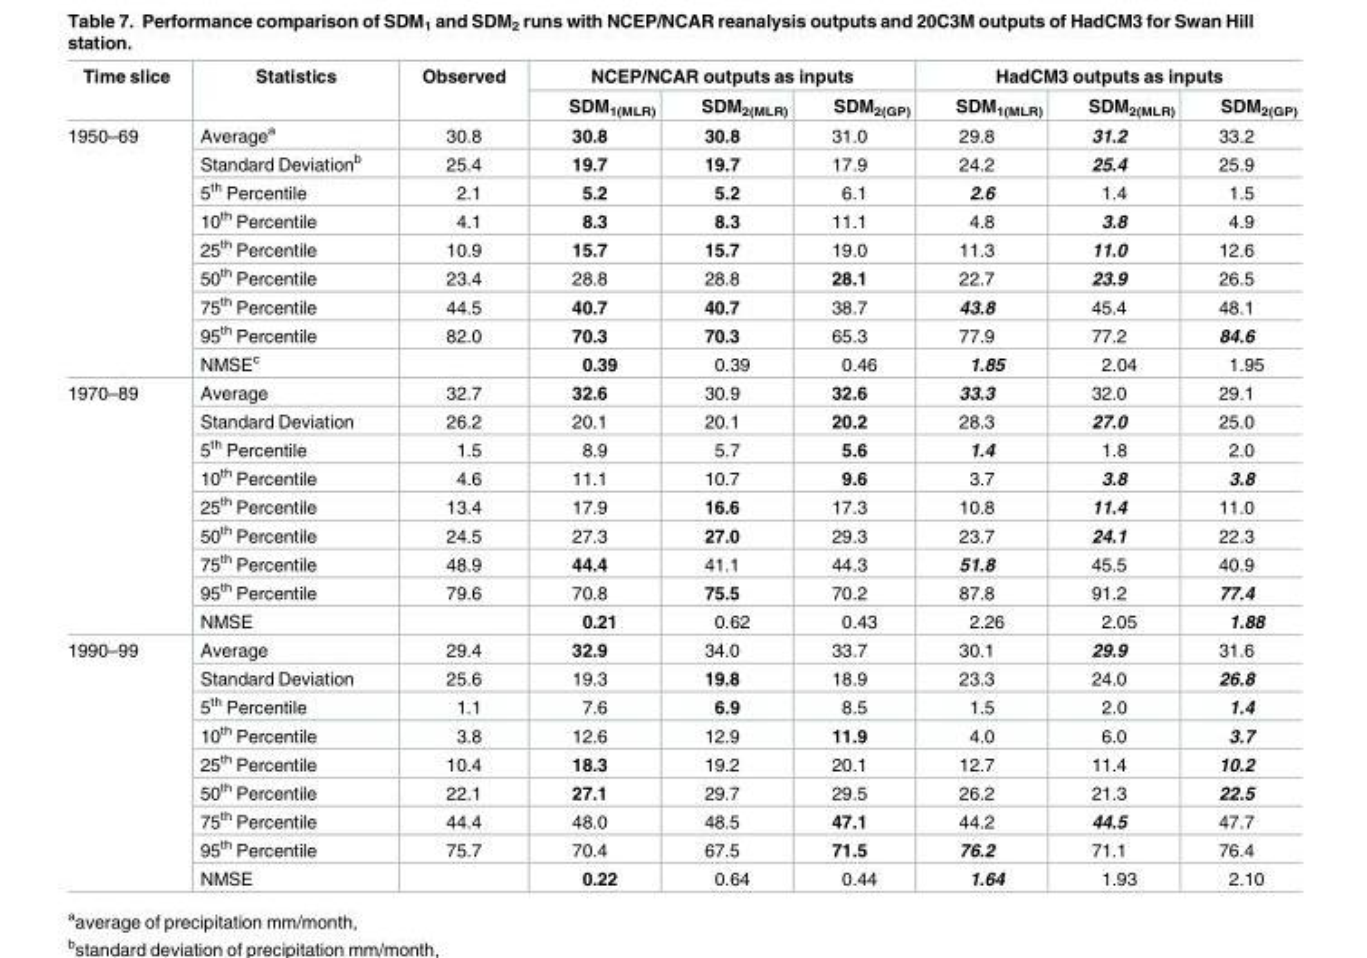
<table><thead><tr><td rowspan="2">Time slice</td><td rowspan="2">Statistics</td><td rowspan="2">Observed</td><td colspan="3">NCEP/NCAR outputs as inputs</td><td colspan="3">HadCM3 outputs as inputs</td></tr><tr><td>SDM<sub>1(MLR)</sub></td><td>SDM<sub>2(MLR)</sub></td><td>SDM<sub>2(GP)</sub></td><td>SDM<sub>1(MLR)</sub></td><td>SDM<sub>2(MLR)</sub></td><td>SDM<sub>2(GP)</sub></td></tr></thead><tbody><tr><td rowspan="9">1950–69</td><td>Average<sup>a</sup></td><td>30.8</td><td>30.8</td><td>30.8</td><td>31.0</td><td>29.8</td><td>31.2</td><td>33.2</td></tr><tr><td>Standard Deviation<sup>b</sup></td><td>25.4</td><td>19.7</td><td>19.7</td><td>17.9</td><td>24.2</td><td>25.4</td><td>25.9</td></tr><tr><td>5<sup>th</sup> Percentile</td><td>2.1</td><td>5.2</td><td>5.2</td><td>6.1</td><td>2.6</td><td>1.4</td><td>1.5</td></tr><tr><td>10<sup>th</sup> Percentile</td><td>4.1</td><td>8.3</td><td>8.3</td><td>11.1</td><td>4.8</td><td>3.8</td><td>4.9</td></tr><tr><td>25<sup>th</sup> Percentile</td><td>10.9</td><td>15.7</td><td>15.7</td><td>19.0</td><td>11.3</td><td>11.0</td><td>12.6</td></tr><tr><td>50<sup>th</sup> Percentile</td><td>23.4</td><td>28.8</td><td>28.8</td><td>28.1</td><td>22.7</td><td>23.9</td><td>26.5</td></tr><tr><td>75<sup>th</sup> Percentile</td><td>44.5</td><td>40.7</td><td>40.7</td><td>38.7</td><td>43.8</td><td>45.4</td><td>48.1</td></tr><tr><td>95<sup>th</sup> Percentile</td><td>82.0</td><td>70.3</td><td>70.3</td><td>65.3</td><td>77.9</td><td>77.2</td><td>84.6</td></tr><tr><td>NMSE<sup>c</sup></td><td></td><td>0.39</td><td>0.39</td><td>0.46</td><td>1.85</td><td>2.04</td><td>1.95</td></tr><tr><td rowspan="9">1970–89</td><td>Average</td><td>32.7</td><td>32.6</td><td>30.9</td><td>32.6</td><td>33.3</td><td>32.0</td><td>29.1</td></tr><tr><td>Standard Deviation</td><td>26.2</td><td>20.1</td><td>20.1</td><td>20.2</td><td>28.3</td><td>27.0</td><td>25.0</td></tr><tr><td>5<sup>th</sup> Percentile</td><td>1.5</td><td>8.9</td><td>5.7</td><td>5.6</td><td>1.4</td><td>1.8</td><td>2.0</td></tr><tr><td>10<sup>th</sup> Percentile</td><td>4.6</td><td>11.1</td><td>10.7</td><td>9.6</td><td>3.7</td><td>3.8</td><td>3.8</td></tr><tr><td>25<sup>th</sup> Percentile</td><td>13.4</td><td>17.9</td><td>16.6</td><td>17.3</td><td>10.8</td><td>11.4</td><td>11.0</td></tr><tr><td>50<sup>th</sup> Percentile</td><td>24.5</td><td>27.3</td><td>27.0</td><td>29.3</td><td>23.7</td><td>24.1</td><td>22.3</td></tr><tr><td>75<sup>th</sup> Percentile</td><td>48.9</td><td>44.4</td><td>41.1</td><td>44.3</td><td>51.8</td><td>45.5</td><td>40.9</td></tr><tr><td>95<sup>th</sup> Percentile</td><td>79.6</td><td>70.8</td><td>75.5</td><td>70.2</td><td>87.8</td><td>91.2</td><td>77.4</td></tr><tr><td>NMSE</td><td></td><td>0.21</td><td>0.62</td><td>0.43</td><td>2.26</td><td>2.05</td><td>1.88</td></tr><tr><td rowspan="9">1990–99</td><td>Average</td><td>29.4</td><td>32.9</td><td>34.0</td><td>33.7</td><td>30.1</td><td>29.9</td><td>31.6</td></tr><tr><td>Standard Deviation</td><td>25.6</td><td>19.3</td><td>19.8</td><td>18.9</td><td>23.3</td><td>24.0</td><td>26.8</td></tr><tr><td>5<sup>th</sup> Percentile</td><td>1.1</td><td>7.6</td><td>6.9</td><td>8.5</td><td>1.5</td><td>2.0</td><td>1.4</td></tr><tr><td>10<sup>th</sup> Percentile</td><td>3.8</td><td>12.6</td><td>12.9</td><td>11.9</td><td>4.0</td><td>6.0</td><td>3.7</td></tr><tr><td>25<sup>th</sup> Percentile</td><td>10.4</td><td>18.3</td><td>19.2</td><td>20.1</td><td>12.7</td><td>11.4</td><td>10.2</td></tr><tr><td>50<sup>th</sup> Percentile</td><td>22.1</td><td>27.1</td><td>29.7</td><td>29.5</td><td>26.2</td><td>21.3</td><td>22.5</td></tr><tr><td>75<sup>th</sup> Percentile</td><td>44.4</td><td>48.0</td><td>48.5</td><td>47.1</td><td>44.2</td><td>44.5</td><td>47.7</td></tr><tr><td>95<sup>th</sup> Percentile</td><td>75.7</td><td>70.4</td><td>67.5</td><td>71.5</td><td>76.2</td><td>71.1</td><td>76.4</td></tr><tr><td>NMSE</td><td></td><td>0.22</td><td>0.64</td><td>0.44</td><td>1.64</td><td>1.93</td><td>2.10</td></tr></tbody></table>